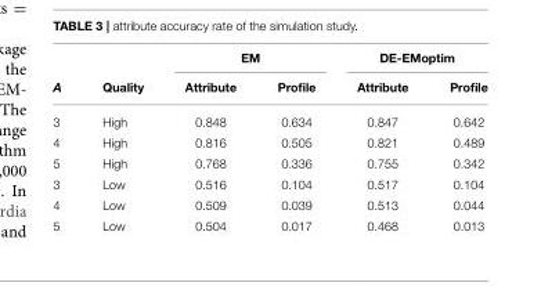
<table><thead><tr><td rowspan="2">A</td><td rowspan="2">Quality</td><td colspan="2">EM</td><td colspan="2">DE-EMoptim</td></tr><tr><td>Attribute</td><td>Profile</td><td>Attribute</td><td>Profile</td></tr></thead><tbody><tr><td>3</td><td>High</td><td>0.848</td><td>0.634</td><td>0.847</td><td>0.642</td></tr><tr><td>4</td><td>High</td><td>0.816</td><td>0.505</td><td>0.821</td><td>0.489</td></tr><tr><td>5</td><td>High</td><td>0.768</td><td>0.336</td><td>0.755</td><td>0.342</td></tr><tr><td>3</td><td>Low</td><td>0.516</td><td>0.104</td><td>0.517</td><td>0.104</td></tr><tr><td>4</td><td>Low</td><td>0.509</td><td>0.039</td><td>0.513</td><td>0.044</td></tr><tr><td>5</td><td>Low</td><td>0.504</td><td>0.017</td><td>0.468</td><td>0.013</td></tr></tbody></table>